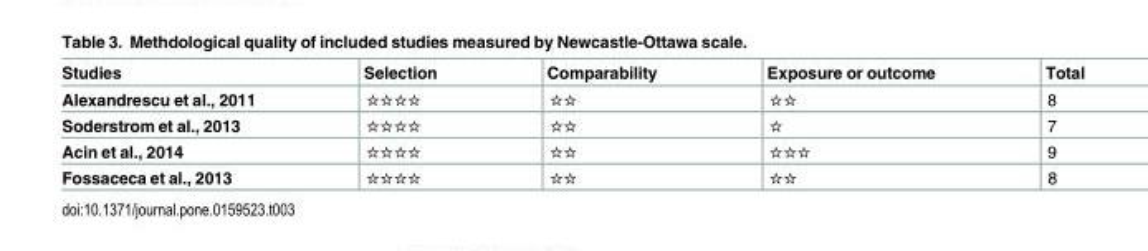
<table><thead><tr><td>Studies</td><td>Selection</td><td>Comparability</td><td>Exposure or outcome</td><td>Total</td></tr></thead><tbody><tr><td>Alexandrescu et al., 2011</td><td>☆☆☆☆</td><td>☆☆</td><td>☆☆</td><td>8</td></tr><tr><td>Soderstrom et al., 2013</td><td>☆☆☆☆</td><td>☆☆</td><td>☆</td><td>7</td></tr><tr><td>Acin et al., 2014</td><td>☆☆☆☆</td><td>☆☆</td><td>☆☆☆</td><td>9</td></tr><tr><td>Fossaceca et al., 2013</td><td>☆☆☆☆</td><td>☆☆</td><td>☆☆</td><td>8</td></tr></tbody></table>